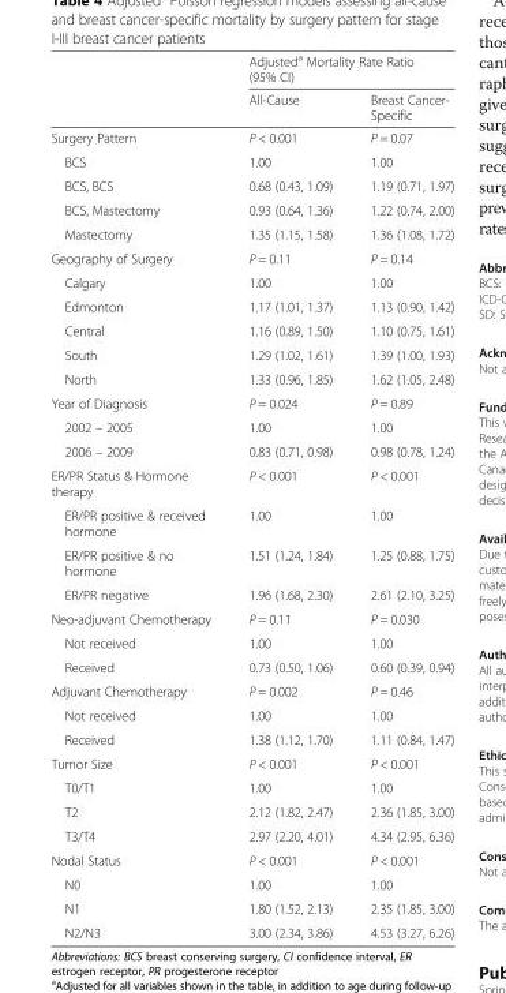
<table><thead><tr><td rowspan="2"></td><td colspan="2">Adjusted<sup>a</sup> Mortality Rate Ratio (95% CI)</td></tr><tr><td>All-Cause</td><td>Breast Cancer- Specific</td></tr></thead><tbody><tr><td>Surgery Pattern</td><td>P &lt; 0.001</td><td>P = 0.07</td></tr><tr><td>BCS</td><td>1.00</td><td>1.00</td></tr><tr><td>BCS, BCS</td><td>0.68 (0.43, 1.09)</td><td>1.19 (0.71, 1.97)</td></tr><tr><td>BCS, Mastectomy</td><td>0.93 (0.64, 1.36)</td><td>1.22 (0.74, 2.00)</td></tr><tr><td>Mastectomy</td><td>1.35 (1.15, 1.58)</td><td>1.36 (1.08, 1.72)</td></tr><tr><td>Geography of Surgery</td><td>P = 0.11</td><td>P = 0.14</td></tr><tr><td>Calgary</td><td>1.00</td><td>1.00</td></tr><tr><td>Edmonton</td><td>1.17 (1.01, 1.37)</td><td>1.13 (0.90, 1.42)</td></tr><tr><td>Central</td><td>1.16 (0.89, 1.50)</td><td>1.10 (0.75, 1.61)</td></tr><tr><td>South</td><td>1.29 (1.02, 1.61)</td><td>1.39 (1.00, 1.93)</td></tr><tr><td>North</td><td>1.33 (0.96, 1.85)</td><td>1.62 (1.05, 2.48)</td></tr><tr><td>Year of Diagnosis</td><td>P = 0.024</td><td>P = 0.89</td></tr><tr><td>2002 – 2005</td><td>1.00</td><td>1.00</td></tr><tr><td>2006 – 2009</td><td>0.83 (0.71, 0.98)</td><td>0.98 (0.78, 1.24)</td></tr><tr><td>ER/PR Status &amp; Hormone therapy</td><td>P &lt; 0.001</td><td>P &lt; 0.001</td></tr><tr><td>ER/PR positive &amp; received hormone</td><td>1.00</td><td>1.00</td></tr><tr><td>ER/PR positive &amp; no hormone</td><td>1.51 (1.24, 1.84)</td><td>1.25 (0.88, 1.75)</td></tr><tr><td>ER/PR negative</td><td>1.96 (1.68, 2.30)</td><td>2.61 (2.10, 3.25)</td></tr><tr><td>Neo-adjuvant Chemotherapy</td><td>P = 0.11</td><td>P = 0.030</td></tr><tr><td>Not received</td><td>1.00</td><td>1.00</td></tr><tr><td>Received</td><td>0.73 (0.50, 1.06)</td><td>0.60 (0.39, 0.94)</td></tr><tr><td>Adjuvant Chemotherapy</td><td>P = 0.002</td><td>P = 0.46</td></tr><tr><td>Not received</td><td>1.00</td><td>1.00</td></tr><tr><td>Received</td><td>1.38 (1.12, 1.70)</td><td>1.11 (0.84, 1.47)</td></tr><tr><td>Tumor Size</td><td>P &lt; 0.001</td><td>P &lt; 0.001</td></tr><tr><td>T0/T1</td><td>1.00</td><td>1.00</td></tr><tr><td>T2</td><td>2.12 (1.82, 2.47)</td><td>2.36 (1.85, 3.00)</td></tr><tr><td>T3/T4</td><td>2.97 (2.20, 4.01)</td><td>4.34 (2.95, 6.36)</td></tr><tr><td>Nodal Status</td><td>P &lt; 0.001</td><td>P &lt; 0.001</td></tr><tr><td>N0</td><td>1.00</td><td>1.00</td></tr><tr><td>N1</td><td>1.80 (1.52, 2.13)</td><td>2.35 (1.85, 3.00)</td></tr><tr><td>N2/N3</td><td>3.00 (2.34, 3.86)</td><td>4.53 (3.27, 6.26)</td></tr></tbody></table>